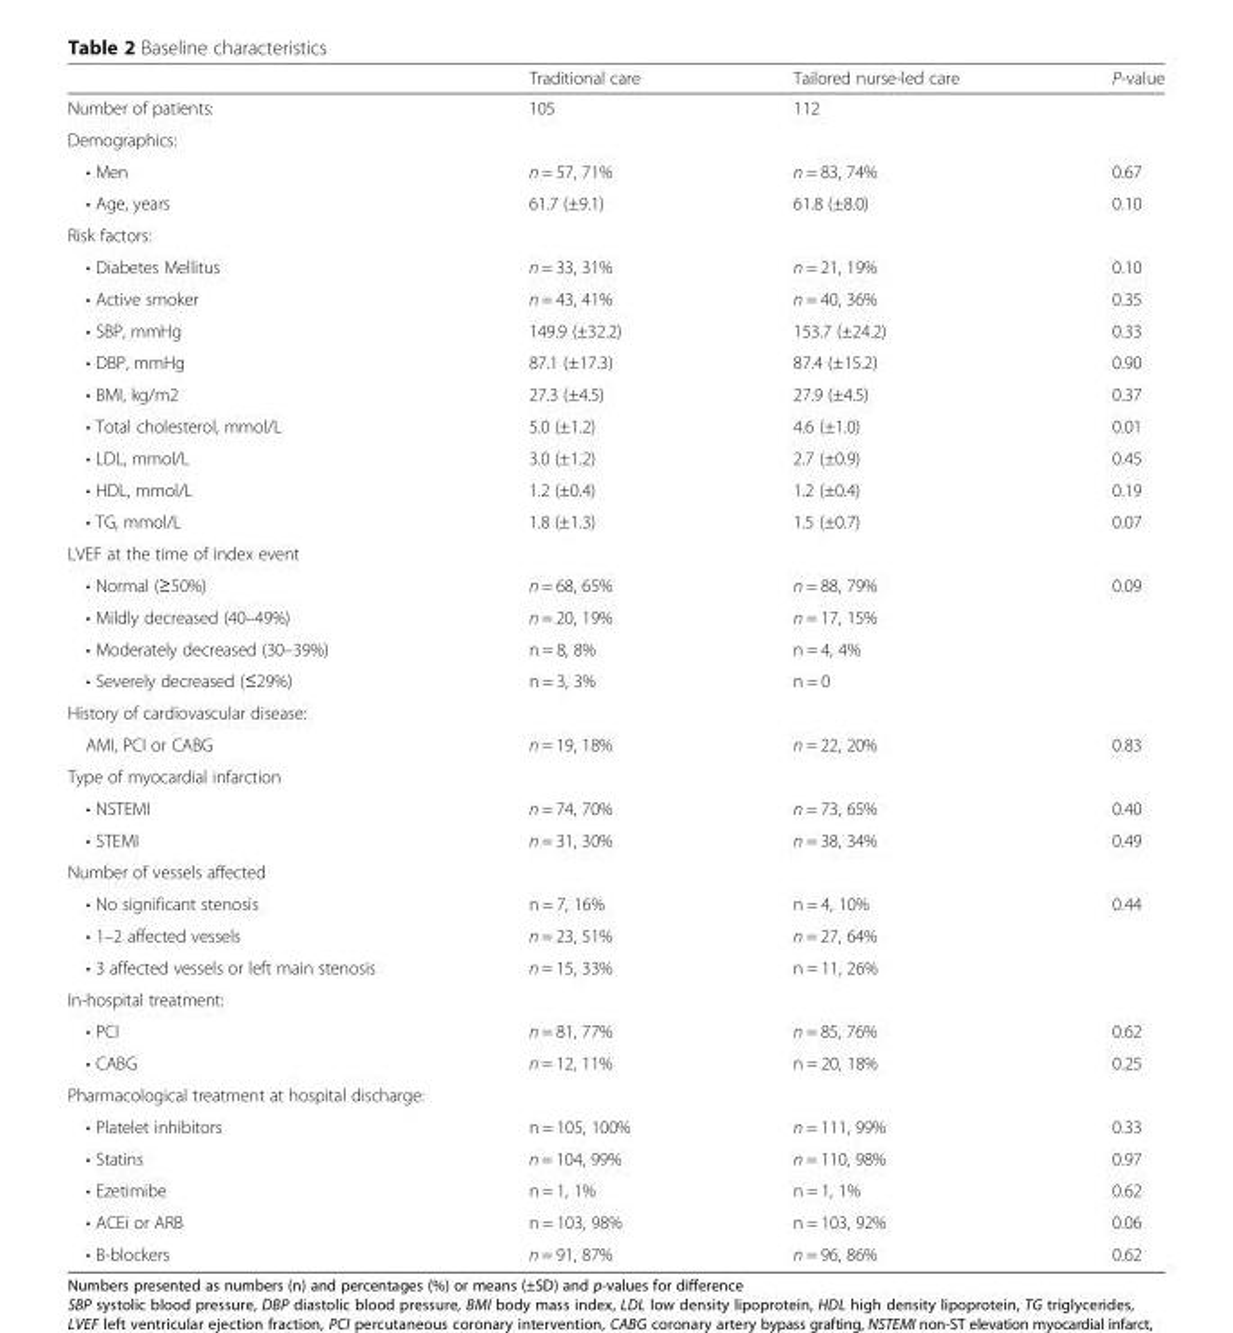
<table><thead><tr><td></td><td>Traditional care</td><td>Tailored nurse-led care</td><td>P-value</td></tr></thead><tbody><tr><td>Number of patients:</td><td>105</td><td>112</td><td></td></tr><tr><td colspan="4">Demographics:</td></tr><tr><td>• Men</td><td>n = 57, 71%</td><td>n = 83, 74%</td><td>0.67</td></tr><tr><td>• Age, years</td><td>61.7 (±9.1)</td><td>61.8 (±8.0)</td><td>0.10</td></tr><tr><td colspan="4">Risk factors:</td></tr><tr><td>• Diabetes Mellitus</td><td>n = 33, 31%</td><td>n = 21, 19%</td><td>0.10</td></tr><tr><td>• Active smoker</td><td>n = 43, 41%</td><td>n = 40, 36%</td><td>0.35</td></tr><tr><td>• SBP, mmHg</td><td>149.9 (±32.2)</td><td>153.7 (±24.2)</td><td>0.33</td></tr><tr><td>• DBP, mmHg</td><td>87.1 (±17.3)</td><td>87.4 (±15.2)</td><td>0.90</td></tr><tr><td>• BMI, kg/m2</td><td>27.3 (±4.5)</td><td>27.9 (±4.5)</td><td>0.37</td></tr><tr><td>• Total cholesterol, mmol/L</td><td>5.0 (±1.2)</td><td>4.6 (±1.0)</td><td>0.01</td></tr><tr><td>• LDL, mmol/L</td><td>3.0 (±1.2)</td><td>2.7 (±0.9)</td><td>0.45</td></tr><tr><td>• HDL, mmol/L</td><td>1.2 (±0.4)</td><td>1.2 (±0.4)</td><td>0.19</td></tr><tr><td>• TG, mmol/L</td><td>1.8 (±1.3)</td><td>1.5 (±0.7)</td><td>0.07</td></tr><tr><td colspan="4">LVEF at the time of index event</td></tr><tr><td>• Normal (≥50%)</td><td>n = 68, 65%</td><td>n = 88, 79%</td><td rowspan="4">0.09</td></tr><tr><td>• Mildly decreased (40–49%)</td><td>n = 20, 19%</td><td>n = 17, 15%</td></tr><tr><td>• Moderately decreased (30–39%)</td><td>n = 8, 8%</td><td>n = 4, 4%</td></tr><tr><td>• Severely decreased (≤29%)</td><td>n = 3, 3%</td><td>n = 0</td></tr><tr><td colspan="4">History of cardiovascular disease:</td></tr><tr><td>AMI, PCI or CABG</td><td>n = 19, 18%</td><td>n = 22, 20%</td><td>0.83</td></tr><tr><td colspan="4">Type of myocardial infarction</td></tr><tr><td>• NSTEMI</td><td>n = 74, 70%</td><td>n = 73, 65%</td><td>0.40</td></tr><tr><td>• STEMI</td><td>n = 31, 30%</td><td>n = 38, 34%</td><td>0.49</td></tr><tr><td colspan="4">Number of vessels affected</td></tr><tr><td>• No significant stenosis</td><td>n = 7, 16%</td><td>n = 4, 10%</td><td rowspan="3">0.44</td></tr><tr><td>• 1–2 affected vessels</td><td>n = 23, 51%</td><td>n = 27, 64%</td></tr><tr><td>• 3 affected vessels or left main stenosis</td><td>n = 15, 33%</td><td>n = 11, 26%</td></tr><tr><td colspan="4">In-hospital treatment:</td></tr><tr><td>• PCI</td><td>n = 81, 77%</td><td>n = 85, 76%</td><td>0.62</td></tr><tr><td>• CABG</td><td>n = 12, 11%</td><td>n = 20, 18%</td><td>0.25</td></tr><tr><td colspan="4">Pharmacological treatment at hospital discharge:</td></tr><tr><td>• Platelet inhibitors</td><td>n = 105, 100%</td><td>n = 111, 99%</td><td>0.33</td></tr><tr><td>• Statins</td><td>n = 104, 99%</td><td>n = 110, 98%</td><td>0.97</td></tr><tr><td>• Ezetimibe</td><td>n = 1, 1%</td><td>n = 1, 1%</td><td>0.62</td></tr><tr><td>• ACEi or ARB</td><td>n = 103, 98%</td><td>n = 103, 92%</td><td>0.06</td></tr><tr><td>• Β-blockers</td><td>n = 91, 87%</td><td>n = 96, 86%</td><td>0.62</td></tr></tbody></table>